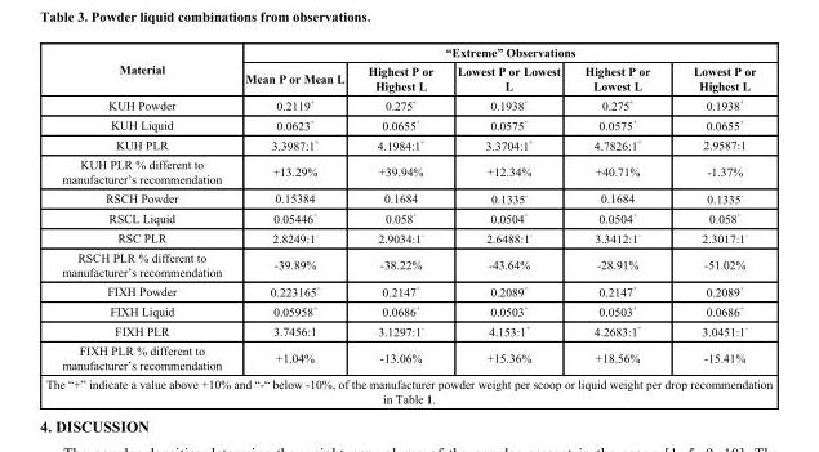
<table><thead><tr><td rowspan="2">Material</td><td colspan="5">“Extreme” Observations</td></tr><tr><td>Mean P or Mean L</td><td>Highest P or Highest L</td><td>Lowest P or Lowest L</td><td>Highest P or Lowest L</td><td>Lowest P or Highest L</td></tr></thead><tbody><tr><td>KUH Powder</td><td>0.2119 <sup>+</sup></td><td>0.275 <sup>+</sup></td><td>0.1938 <sup>+</sup></td><td>0.275 <sup>+</sup></td><td>0.1938 <sup>+</sup></td></tr><tr><td>KUH Liquid</td><td>0.0623 <sup>+</sup></td><td>0.0655 <sup>+</sup></td><td>0.0575 <sup>+</sup></td><td>0.0575 <sup>+</sup></td><td>0.0655 <sup>+</sup></td></tr><tr><td>KUH PLR</td><td>3.3987:1 <sup>+</sup></td><td>4.1984:1 <sup>+</sup></td><td>3.3704:1 <sup>+</sup></td><td>4.7826:1 <sup>+</sup></td><td>2.9587:1</td></tr><tr><td>KUH PLR % different to manufacturer’s recommendation</td><td>+13.29%</td><td>+39.94%</td><td>+12.34%</td><td>+40.71%</td><td>-1.37%</td></tr><tr><td>RSCH Powder</td><td>0.15384</td><td>0.1684</td><td>0.1335 <sup>-</sup></td><td>0.1684</td><td>0.1335 <sup>-</sup></td></tr><tr><td>RSCL Liquid</td><td>0.05446 <sup>+</sup></td><td>0.058 <sup>+</sup></td><td>0.0504 <sup>+</sup></td><td>0.0504 <sup>+</sup></td><td>0.058 <sup>+</sup></td></tr><tr><td>RSC PLR</td><td>2.8249:1 <sup>-</sup></td><td>2.9034:1 <sup>-</sup></td><td>2.6488:1 <sup>-</sup></td><td>3.3412:1 <sup>-</sup></td><td>2.3017:1 <sup>-</sup></td></tr><tr><td>RSCH PLR % different to manufacturer’s recommendation</td><td>-39.89%</td><td>-38.22%</td><td>-43.64%</td><td>-28.91%</td><td>-51.02%</td></tr><tr><td>FIXH Powder</td><td>0.223165 <sup>+</sup></td><td>0.2147 <sup>+</sup></td><td>0.2089 <sup>+</sup></td><td>0.2147 <sup>+</sup></td><td>0.2089 <sup>+</sup></td></tr><tr><td>FIXH Liquid</td><td>0.05958 <sup>+</sup></td><td>0.0686 <sup>+</sup></td><td>0.0503 <sup>+</sup></td><td>0.0503 <sup>+</sup></td><td>0.0686 <sup>+</sup></td></tr><tr><td>FIXH PLR</td><td>3.7456:1</td><td>3.1297:1 <sup>-</sup></td><td>4.153:1 <sup>+</sup></td><td>4.2683:1 <sup>+</sup></td><td>3.0451:1 <sup>-</sup></td></tr><tr><td>FIXH PLR % different to manufacturer’s recommendation</td><td>+1.04%</td><td>-13.06%</td><td>+15.36%</td><td>+18.56%</td><td>-15.41%</td></tr><tr><td colspan="6">The “+” indicate a value above +10% and “-“ below -10%, of the manufacturer powder weight per scoop or liquid weight per drop recommendation in Table 1.</td></tr></tbody></table>